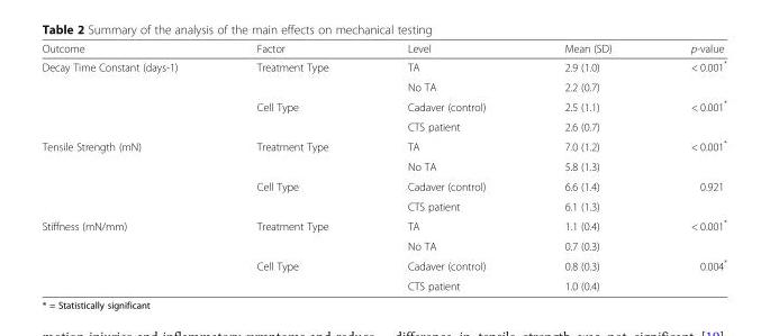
<table><thead><tr><td>Outcome</td><td>Factor</td><td>Level</td><td>Mean (SD)</td><td>p-value</td></tr></thead><tbody><tr><td rowspan="4">Decay Time Constant (days-1)</td><td rowspan="2">Treatment Type</td><td>TA</td><td>2.9 (1.0)</td><td rowspan="2">&lt; 0.001*</td></tr><tr><td>No TA</td><td>2.2 (0.7)</td></tr><tr><td rowspan="2">Cell Type</td><td>Cadaver (control)</td><td>2.5 (1.1)</td><td rowspan="2">&lt; 0.001*</td></tr><tr><td>CTS patient</td><td>2.6 (0.7)</td></tr><tr><td rowspan="4">Tensile Strength (mN)</td><td rowspan="2">Treatment Type</td><td>TA</td><td>7.0 (1.2)</td><td rowspan="2">&lt; 0.001*</td></tr><tr><td>No TA</td><td>5.8 (1.3)</td></tr><tr><td rowspan="2">Cell Type</td><td>Cadaver (control)</td><td>6.6 (1.4)</td><td rowspan="2">0.921</td></tr><tr><td>CTS patient</td><td>6.1 (1.3)</td></tr><tr><td rowspan="4">Stiffness (mN/mm)</td><td rowspan="2">Treatment Type</td><td>TA</td><td>1.1 (0.4)</td><td rowspan="2">&lt; 0.001*</td></tr><tr><td>No TA</td><td>0.7 (0.3)</td></tr><tr><td rowspan="2">Cell Type</td><td>Cadaver (control)</td><td>0.8 (0.3)</td><td rowspan="2">0.004*</td></tr><tr><td>CTS patient</td><td>1.0 (0.4)</td></tr></tbody></table>